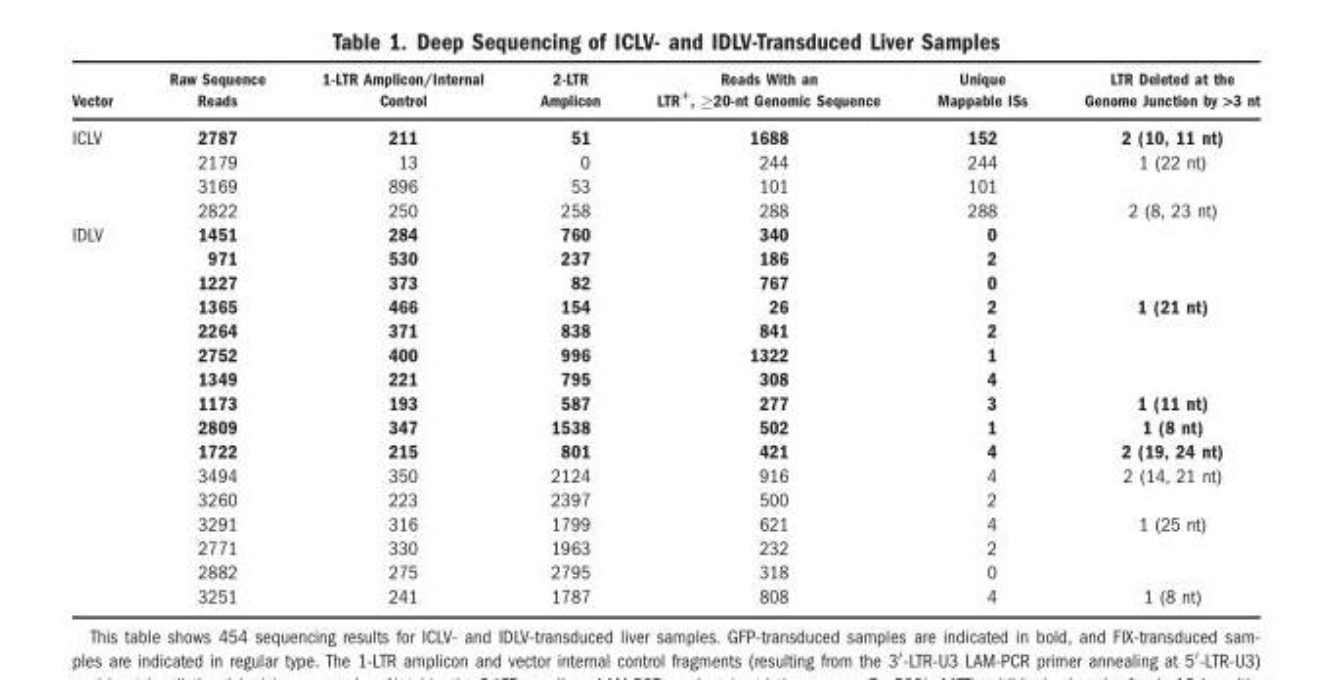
<table><thead><tr><td>Vector</td><td>Raw Sequence Reads</td><td>1-LTR Amplicon/Internal Control</td><td>2-LTR Amplicon</td><td>Reads With an LTR<sup>+</sup>, ≥20-nt Genomic Sequence</td><td>Unique Mappable ISs</td><td>LTR Deleted at the Genome Junction by &gt;3 nt</td></tr></thead><tbody><tr><td rowspan="4">ICLV</td><td>2787</td><td>211</td><td>51</td><td>1688</td><td>152</td><td>2 (10, 11 nt)</td></tr><tr><td>2179</td><td>13</td><td>0</td><td>244</td><td>244</td><td>1 (22 nt)</td></tr><tr><td>3169</td><td>896</td><td>53</td><td>101</td><td>101</td><td></td></tr><tr><td>2822</td><td>250</td><td>258</td><td>288</td><td>288</td><td>2 (8, 23 nt)</td></tr><tr><td rowspan="16">IDLV</td><td>1451</td><td>284</td><td>760</td><td>340</td><td>0</td><td></td></tr><tr><td>971</td><td>530</td><td>237</td><td>186</td><td>2</td><td></td></tr><tr><td>1227</td><td>373</td><td>82</td><td>767</td><td>0</td><td></td></tr><tr><td>1365</td><td>466</td><td>154</td><td>26</td><td>2</td><td>1 (21 nt)</td></tr><tr><td>2264</td><td>371</td><td>838</td><td>841</td><td>2</td><td></td></tr><tr><td>2752</td><td>400</td><td>996</td><td>1322</td><td>1</td><td></td></tr><tr><td>1349</td><td>221</td><td>795</td><td>308</td><td>4</td><td></td></tr><tr><td>1173</td><td>193</td><td>587</td><td>277</td><td>3</td><td>1 (11 nt)</td></tr><tr><td>2809</td><td>347</td><td>1538</td><td>502</td><td>1</td><td>1 (8 nt)</td></tr><tr><td>1722</td><td>215</td><td>801</td><td>421</td><td>4</td><td>2 (19, 24 nt)</td></tr><tr><td>3494</td><td>350</td><td>2124</td><td>916</td><td>4</td><td>2 (14, 21 nt)</td></tr><tr><td>3260</td><td>223</td><td>2397</td><td>500</td><td>2</td><td></td></tr><tr><td>3291</td><td>316</td><td>1799</td><td>621</td><td>4</td><td>1 (25 nt)</td></tr><tr><td>2771</td><td>330</td><td>1963</td><td>232</td><td>2</td><td></td></tr><tr><td>2882</td><td>275</td><td>2795</td><td>318</td><td>0</td><td></td></tr><tr><td>3251</td><td>241</td><td>1787</td><td>808</td><td>4</td><td>1 (8 nt)</td></tr></tbody></table>